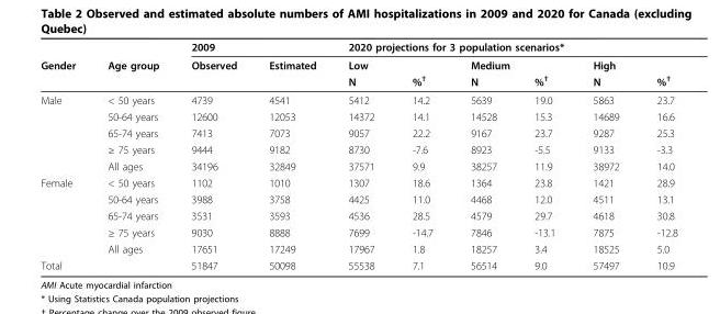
<table><thead><tr><td rowspan="3">Gender</td><td rowspan="3">Age group</td><td colspan="2">2009</td><td colspan="6">2020 projections for 3 population scenarios*</td></tr><tr><td rowspan="2">Observed</td><td rowspan="2">Estimated</td><td colspan="2">Low</td><td colspan="2">Medium</td><td colspan="2">High</td></tr><tr><td>N</td><td>%<sup>†</sup></td><td>N</td><td>%<sup>†</sup></td><td>N</td><td>%<sup>†</sup></td></tr></thead><tbody><tr><td rowspan="5">Male</td><td>&lt; 50 years</td><td>4739</td><td>4541</td><td>5412</td><td>14.2</td><td>5639</td><td>19.0</td><td>5863</td><td>23.7</td></tr><tr><td>50-64 years</td><td>12600</td><td>12053</td><td>14372</td><td>14.1</td><td>14528</td><td>15.3</td><td>14689</td><td>16.6</td></tr><tr><td>65-74 years</td><td>7413</td><td>7073</td><td>9057</td><td>22.2</td><td>9167</td><td>23.7</td><td>9287</td><td>25.3</td></tr><tr><td>≥ 75 years</td><td>9444</td><td>9182</td><td>8730</td><td>-7.6</td><td>8923</td><td>-5.5</td><td>9133</td><td>-3.3</td></tr><tr><td>All ages</td><td>34196</td><td>32849</td><td>37571</td><td>9.9</td><td>38257</td><td>11.9</td><td>38972</td><td>14.0</td></tr><tr><td rowspan="5">Female</td><td>&lt; 50 years</td><td>1102</td><td>1010</td><td>1307</td><td>18.6</td><td>1364</td><td>23.8</td><td>1421</td><td>28.9</td></tr><tr><td>50-64 years</td><td>3988</td><td>3758</td><td>4425</td><td>11.0</td><td>4468</td><td>12.0</td><td>4511</td><td>13.1</td></tr><tr><td>65-74 years</td><td>3531</td><td>3593</td><td>4536</td><td>28.5</td><td>4579</td><td>29.7</td><td>4618</td><td>30.8</td></tr><tr><td>≥ 75 years</td><td>9030</td><td>8888</td><td>7699</td><td>-14.7</td><td>7846</td><td>-13.1</td><td>7875</td><td>-12.8</td></tr><tr><td>All ages</td><td>17651</td><td>17249</td><td>17967</td><td>1.8</td><td>18257</td><td>3.4</td><td>18525</td><td>5.0</td></tr><tr><td colspan="2">Total</td><td>51847</td><td>50098</td><td>55538</td><td>7.1</td><td>56514</td><td>9.0</td><td>57497</td><td>10.9</td></tr></tbody></table>